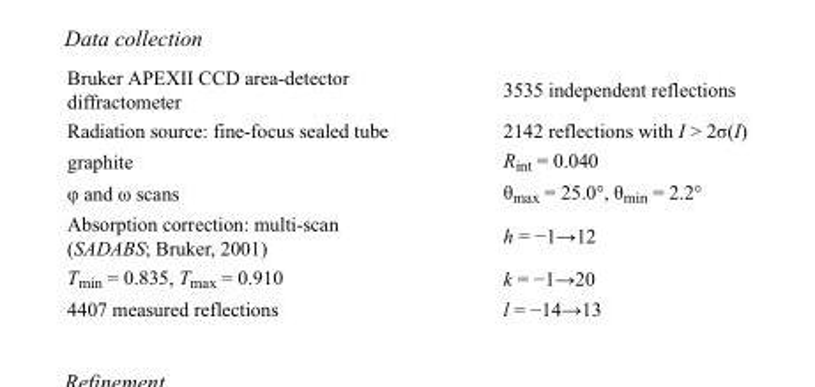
<table><tbody><tr><td>Bruker APEXII CCD area-detector diffractometer</td><td>3535 independent reflections</td></tr><tr><td>Radiation source: fine-focus sealed tube</td><td>2142 reflections with I &gt; 2σ(I)</td></tr><tr><td>graphite</td><td>R<sub>int</sub> = 0.040</td></tr><tr><td>φ and ω scans</td><td>θ<sub>max</sub> = 25.0°, θ<sub>min</sub> = 2.2°</td></tr><tr><td>Absorption correction: multi-scan (SADABS; Bruker, 2001)</td><td>h = −1→12</td></tr><tr><td>T<sub>min</sub> = 0.835, T<sub>max</sub> = 0.910</td><td>k = −1→20</td></tr><tr><td>4407 measured reflections</td><td>l = −14→13</td></tr></tbody></table>